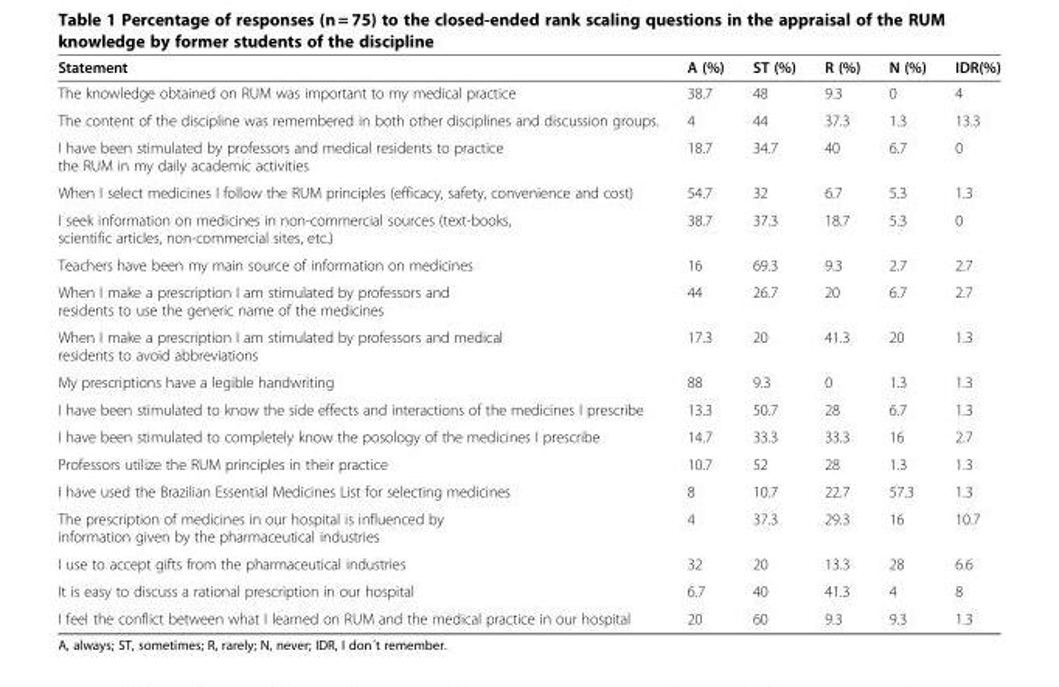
<table><thead><tr><td>Statement</td><td>A (%)</td><td>ST (%)</td><td>R (%)</td><td>N (%)</td><td>IDR(%)</td></tr></thead><tbody><tr><td>The knowledge obtained on RUM was important to my medical practice</td><td>38.7</td><td>48</td><td>9.3</td><td>0</td><td>4</td></tr><tr><td>The content of the discipline was remembered in both other disciplines and discussion groups.</td><td>4</td><td>44</td><td>37.3</td><td>1.3</td><td>13.3</td></tr><tr><td>I have been stimulated by professors and medical residents to practice the RUM in my daily academic activities</td><td>18.7</td><td>34.7</td><td>40</td><td>6.7</td><td>0</td></tr><tr><td>When I select medicines I follow the RUM principles (efficacy, safety, convenience and cost)</td><td>54.7</td><td>32</td><td>6.7</td><td>5.3</td><td>1.3</td></tr><tr><td>I seek information on medicines in non-commercial sources (text-books, scientific articles, non-commercial sites, etc.)</td><td>38.7</td><td>37.3</td><td>18.7</td><td>5.3</td><td>0</td></tr><tr><td>Teachers have been my main source of information on medicines</td><td>16</td><td>69.3</td><td>9.3</td><td>2.7</td><td>2.7</td></tr><tr><td>When I make a prescription I am stimulated by professors and residents to use the generic name of the medicines</td><td>44</td><td>26.7</td><td>20</td><td>6.7</td><td>2.7</td></tr><tr><td>When I make a prescription I am stimulated by professors and medical residents to avoid abbreviations</td><td>17.3</td><td>20</td><td>41.3</td><td>20</td><td>1.3</td></tr><tr><td>My prescriptions have a legible handwriting</td><td>88</td><td>9.3</td><td>0</td><td>1.3</td><td>1.3</td></tr><tr><td>I have been stimulated to know the side effects and interactions of the medicines I prescribe</td><td>13.3</td><td>50.7</td><td>28</td><td>6.7</td><td>1.3</td></tr><tr><td>I have been stimulated to completely know the posology of the medicines I prescribe</td><td>14.7</td><td>33.3</td><td>33.3</td><td>16</td><td>2.7</td></tr><tr><td>Professors utilize the RUM principles in their practice</td><td>10.7</td><td>52</td><td>28</td><td>1.3</td><td>1.3</td></tr><tr><td>I have used the Brazilian Essential Medicines List for selecting medicines</td><td>8</td><td>10.7</td><td>22.7</td><td>57.3</td><td>1.3</td></tr><tr><td>The prescription of medicines in our hospital is influenced by information given by the pharmaceutical industries</td><td>4</td><td>37.3</td><td>29.3</td><td>16</td><td>10.7</td></tr><tr><td>I use to accept gifts from the pharmaceutical industries</td><td>32</td><td>20</td><td>13.3</td><td>28</td><td>6.6</td></tr><tr><td>It is easy to discuss a rational prescription in our hospital</td><td>6.7</td><td>40</td><td>41.3</td><td>4</td><td>8</td></tr><tr><td>I feel the conflict between what I learned on RUM and the medical practice in our hospital</td><td>20</td><td>60</td><td>9.3</td><td>9.3</td><td>1.3</td></tr></tbody></table>